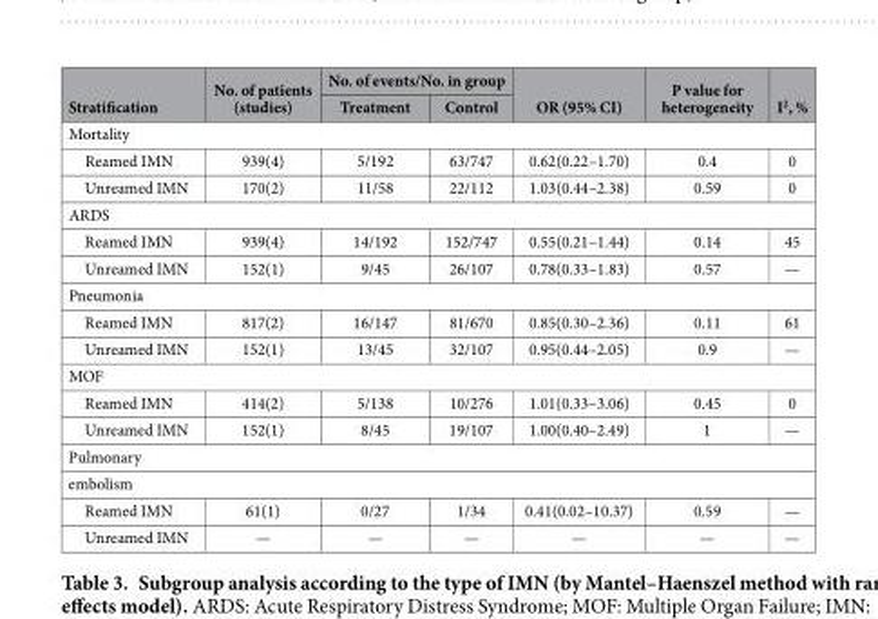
<table><thead><tr><td rowspan="2">Stratification</td><td rowspan="2">No. of patients (studies)</td><td colspan="2">No. of events/No. in group</td><td rowspan="2">OR (95% CI)</td><td rowspan="2">P value for heterogeneity</td><td rowspan="2">I<sup>2</sup>, %</td></tr><tr><td>Treatment</td><td>Control</td></tr></thead><tbody><tr><td colspan="7">Mortality</td></tr><tr><td>Reamed IMN</td><td>939(4)</td><td>5/192</td><td>63/747</td><td>0.62(0.22–1.70)</td><td>0.4</td><td>0</td></tr><tr><td>Unreamed IMN</td><td>170(2)</td><td>11/58</td><td>22/112</td><td>1.03(0.44–2.38)</td><td>0.59</td><td>0</td></tr><tr><td colspan="7">ARDS</td></tr><tr><td>Reamed IMN</td><td>939(4)</td><td>14/192</td><td>152/747</td><td>0.55(0.21–1.44)</td><td>0.14</td><td>45</td></tr><tr><td>Unreamed IMN</td><td>152(1)</td><td>9/45</td><td>26/107</td><td>0.78(0.33–1.83)</td><td>0.57</td><td>—</td></tr><tr><td colspan="7">Pneumonia</td></tr><tr><td>Reamed IMN</td><td>817(2)</td><td>16/147</td><td>81/670</td><td>0.85(0.30–2.36)</td><td>0.11</td><td>61</td></tr><tr><td>Unreamed IMN</td><td>152(1)</td><td>13/45</td><td>32/107</td><td>0.95(0.44–2.05)</td><td>0.9</td><td>—</td></tr><tr><td colspan="7">MOF</td></tr><tr><td>Reamed IMN</td><td>414(2)</td><td>5/138</td><td>10/276</td><td>1.01(0.33–3.06)</td><td>0.45</td><td>0</td></tr><tr><td>Unreamed IMN</td><td>152(1)</td><td>8/45</td><td>19/107</td><td>1.00(0.40–2.49)</td><td>1</td><td>—</td></tr><tr><td colspan="7">Pulmonary</td></tr><tr><td colspan="7">embolism</td></tr><tr><td>Reamed IMN</td><td>61(1)</td><td>0/27</td><td>1/34</td><td>0.41(0.02–10.37)</td><td>0.59</td><td>—</td></tr><tr><td>Unreamed IMN</td><td>—</td><td>—</td><td>—</td><td>—</td><td>—</td><td>—</td></tr></tbody></table>